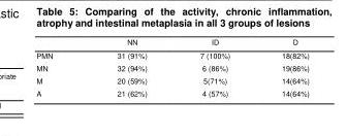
<table><thead><tr><td></td><td>NN</td><td>ID</td><td>D</td></tr></thead><tbody><tr><td>PMN</td><td>31 (91%)</td><td>7 (100%)</td><td>18(82%)</td></tr><tr><td>MN</td><td>32 (94%)</td><td>6 (86%)</td><td>19(86%)</td></tr><tr><td>M</td><td>20 (59%)</td><td>5(71%)</td><td>14(64%)</td></tr><tr><td>A</td><td>21 (62%)</td><td>4 (57%)</td><td>14(64%)</td></tr></tbody></table>